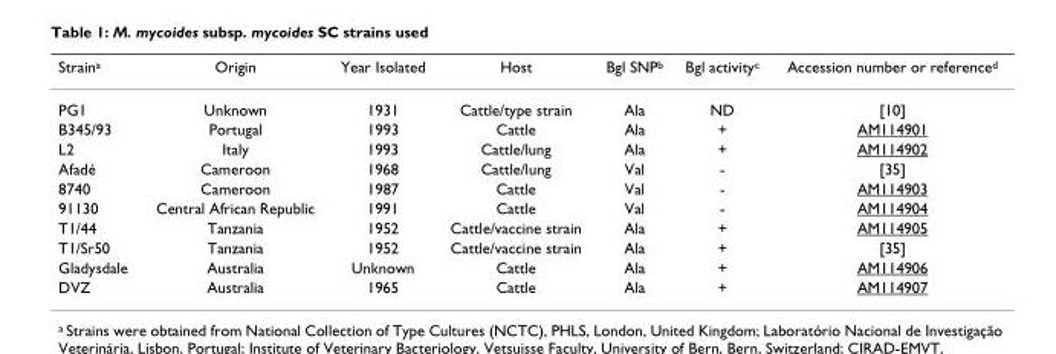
<table><thead><tr><td>Straina</td><td>Origin</td><td>Year Isolated</td><td>Host</td><td>Bgl SNPb</td><td>Bgl activityc</td><td>Accession number or referenced</td></tr></thead><tbody><tr><td>PG1</td><td>Unknown</td><td>1931</td><td>Cattle/type strain</td><td>Ala</td><td>ND</td><td>[10]</td></tr><tr><td>B345/93</td><td>Portugal</td><td>1993</td><td>Cattle</td><td>Ala</td><td>+</td><td>AM114901</td></tr><tr><td>L2</td><td>Italy</td><td>1993</td><td>Cattle/lung</td><td>Ala</td><td>+</td><td>AM114902</td></tr><tr><td>Afadé</td><td>Cameroon</td><td>1968</td><td>Cattle/lung</td><td>Val</td><td>-</td><td>[35]</td></tr><tr><td>8740</td><td>Cameroon</td><td>1987</td><td>Cattle</td><td>Val</td><td>-</td><td>AM114903</td></tr><tr><td>91130</td><td>Central African Republic</td><td>1991</td><td>Cattle</td><td>Val</td><td>-</td><td>AM114904</td></tr><tr><td>T1/44</td><td>Tanzania</td><td>1952</td><td>Cattle/vaccine strain</td><td>Ala</td><td>+</td><td>AM114905</td></tr><tr><td>T1/Sr50</td><td>Tanzania</td><td>1952</td><td>Cattle/vaccine strain</td><td>Ala</td><td>+</td><td>[35]</td></tr><tr><td>Gladysdale</td><td>Australia</td><td>Unknown</td><td>Cattle</td><td>Ala</td><td>+</td><td>AM114906</td></tr><tr><td>DVZ</td><td>Australia</td><td>1965</td><td>Cattle</td><td>Ala</td><td>+</td><td>AM114907</td></tr></tbody></table>